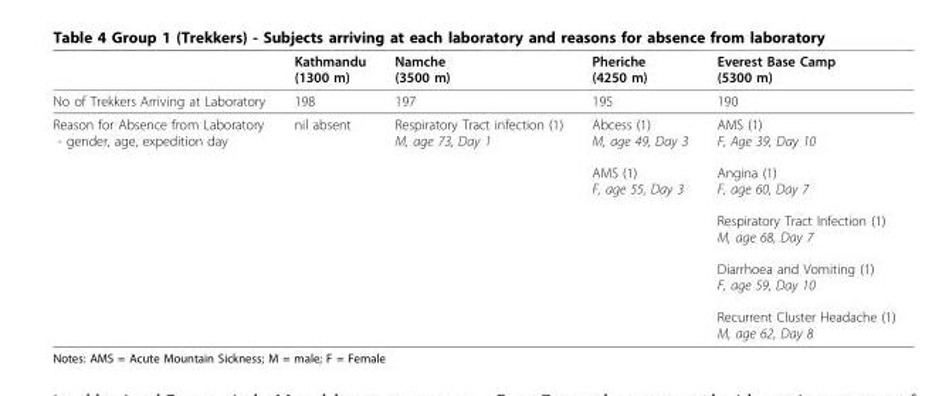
<table><thead><tr><td></td><td>Kathmandu (1300 m)</td><td>Namche (3500 m)</td><td>Pheriche (4250 m)</td><td>Everest Base Camp (5300 m)</td></tr></thead><tbody><tr><td>No of Trekkers Arriving at Laboratory</td><td>198</td><td>197</td><td>195</td><td>190</td></tr><tr><td>Reason for Absence from Laboratory - gender, age, expedition day</td><td>nil absent</td><td>Respiratory Tract infection (1) M, age 73, Day 1</td><td>Abcess (1) M, age 49, Day 3 AMS (1) F, age 55, Day 3</td><td>AMS (1) F, Age 39, Day 10 Angina (1) F, age 60, Day 7 Respiratory Tract Infection (1) M, age 68, Day 7 Diarrhoea and Vomiting (1) F, age 59, Day 10 Recurrent Cluster Headache (1) M, age 62, Day 8</td></tr></tbody></table>